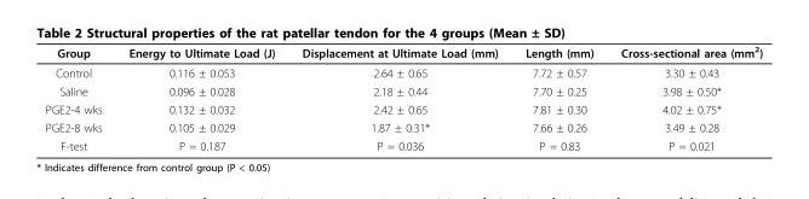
<table><thead><tr><td>Group</td><td>Energy to Ultimate Load (J)</td><td>Displacement at Ultimate Load (mm)</td><td>Length (mm)</td><td>Cross-sectional area (mm<sup>2</sup>)</td></tr></thead><tbody><tr><td>Control</td><td>0.116 ± 0.053</td><td>2.64 ± 0.65</td><td>7.72 ± 0.57</td><td>3.30 ± 0.43</td></tr><tr><td>Saline</td><td>0.096 ± 0.028</td><td>2.18 ± 0.44</td><td>7.70 ± 0.25</td><td>3.98 ± 0.50*</td></tr><tr><td>PGE2-4 wks</td><td>0.132 ± 0.032</td><td>2.42 ± 0.65</td><td>7.81 ± 0.30</td><td>4.02 ± 0.75*</td></tr><tr><td>PGE2-8 wks</td><td>0.105 ± 0.029</td><td>1.87 ± 0.31*</td><td>7.66 ± 0.26</td><td>3.49 ± 0.28</td></tr><tr><td>F-test</td><td>P = 0.187</td><td>P = 0.036</td><td>P = 0.83</td><td>P = 0.021</td></tr></tbody></table>